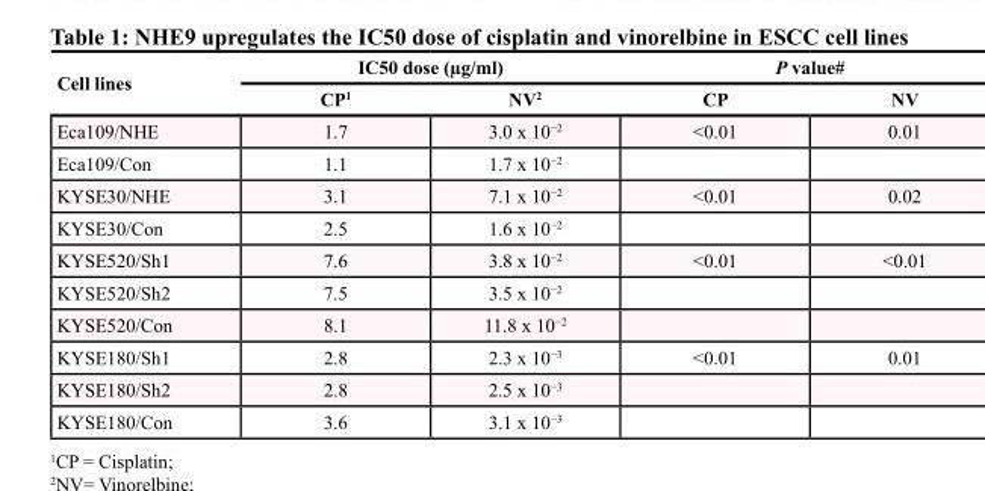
<table><thead><tr><td rowspan="2">Cell lines</td><td colspan="2">IC50 dose (µg/ml)</td><td colspan="2">P value#</td></tr><tr><td>CP<sup>1</sup></td><td>NV<sup>2</sup></td><td>CP</td><td>NV</td></tr></thead><tbody><tr><td>Eca109/NHE</td><td>1.7</td><td>3.0 x 10−2</td><td>&lt;0.01</td><td>0.01</td></tr><tr><td>Eca109/Con</td><td>1.1</td><td>1.7 x 10−2</td><td></td><td></td></tr><tr><td>KYSE30/NHE</td><td>3.1</td><td>7.1 x 10−2</td><td>&lt;0.01</td><td>0.02</td></tr><tr><td>KYSE30/Con</td><td>2.5</td><td>1.6 x 10−2</td><td></td><td></td></tr><tr><td>KYSE520/Sh1</td><td>7.6</td><td>3.8 x 10−2</td><td>&lt;0.01</td><td>&lt;0.01</td></tr><tr><td>KYSE520/Sh2</td><td>7.5</td><td>3.5 x 10−2</td><td></td><td></td></tr><tr><td>KYSE520/Con</td><td>8.1</td><td>11.8 x 10−2</td><td></td><td></td></tr><tr><td>KYSE180/Sh1</td><td>2.8</td><td>2.3 x 10−3</td><td>&lt;0.01</td><td>0.01</td></tr><tr><td>KYSE180/Sh2</td><td>2.8</td><td>2.5 x 10−3</td><td></td><td></td></tr><tr><td>KYSE180/Con</td><td>3.6</td><td>3.1 x 10−3</td><td></td><td></td></tr></tbody></table>